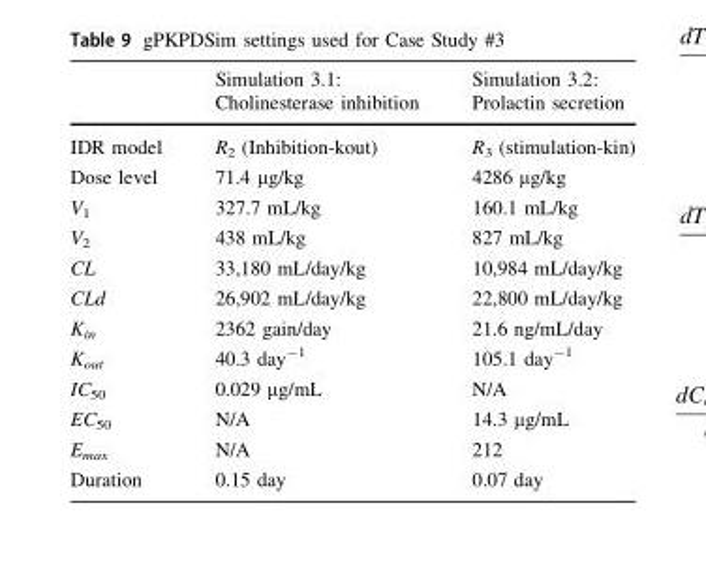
<table><thead><tr><td rowspan="2"></td><td rowspan="2">Simulation 3.1: Cholinesterase inhibition</td><td rowspan="2">Simulation 3.2: Prolactin secretion</td></tr><tr></tr></thead><tbody><tr><td>IDR model</td><td>R<sub>2</sub> (Inhibition-kout)</td><td>R<sub>3</sub> (stimulation-kin)</td></tr><tr><td>Dose level</td><td>71.4 μg/kg</td><td>4286 μg/kg</td></tr><tr><td>V<sub>1</sub></td><td>327.7 mL/kg</td><td>160.1 mL/kg</td></tr><tr><td>V<sub>2</sub></td><td>438 mL/kg</td><td>827 mL/kg</td></tr><tr><td>CL</td><td>33,180 mL/day/kg</td><td>10,984 mL/day/kg</td></tr><tr><td>CLd</td><td>26,902 mL/day/kg</td><td>22,800 mL/day/kg</td></tr><tr><td>K<sub>in</sub></td><td>2362 gain/day</td><td>21.6 ng/mL/day</td></tr><tr><td>K<sub>out</sub></td><td>40.3 day<sup>-1</sup></td><td>105.1 day<sup>-1</sup></td></tr><tr><td>IC<sub>50</sub></td><td>0.029 μg/mL</td><td>N/A</td></tr><tr><td>EC<sub>50</sub></td><td>N/A</td><td>14.3 μg/mL</td></tr><tr><td>E<sub>max</sub></td><td>N/A</td><td>212</td></tr><tr><td>Duration</td><td>0.15 day</td><td>0.07 day</td></tr></tbody></table>